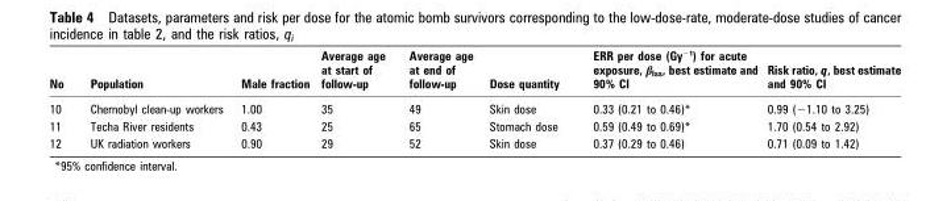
<table><thead><tr><td>No</td><td>Population</td><td>Male fraction</td><td>Average age at start of follow-up</td><td>Average age at end of follow-up</td><td>Dose quantity</td><td>ERR per dose (Gy<sup>−1</sup>) for acute exposure, β<sub>lss</sub>, best estimate and 90% CI</td><td>Risk ratio, q, best estimate and 90% CI</td></tr></thead><tbody><tr><td>10</td><td>Chernobyl clean-up workers</td><td>1.00</td><td>35</td><td>49</td><td>Skin dose</td><td>0.33 (0.21 to 0.46)*</td><td>0.99 (−1.10 to 3.25)</td></tr><tr><td>11</td><td>Techa River residents</td><td>0.43</td><td>25</td><td>65</td><td>Stomach dose</td><td>0.59 (0.49 to 0.69)*</td><td>1.70 (0.54 to 2.92)</td></tr><tr><td>12</td><td>UK radiation workers</td><td>0.90</td><td>29</td><td>52</td><td>Skin dose</td><td>0.37 (0.29 to 0.46)</td><td>0.71 (0.09 to 1.42)</td></tr></tbody></table>